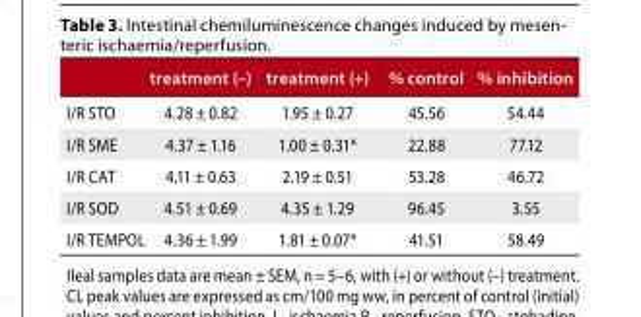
<table><thead><tr><td></td><td>treatment (–)</td><td>treatment (+)</td><td>% control</td><td>% inhibition</td></tr></thead><tbody><tr><td>I/R STO</td><td>4.28 ± 0.82</td><td>1.95 ± 0.27</td><td>45.56</td><td>54.44</td></tr><tr><td>I/R SME</td><td>4.37 ± 1.16</td><td>1.00 ± 0.31*</td><td>22.88</td><td>77.12</td></tr><tr><td>I/R CAT</td><td>4.11 ± 0.63</td><td>2.19 ± 0.51</td><td>53.28</td><td>46.72</td></tr><tr><td>I/R SOD</td><td>4.51 ± 0.69</td><td>4.35 ± 1.29</td><td>96.45</td><td>3.55</td></tr><tr><td>I/R TEMPOL</td><td>4.36 ± 1.99</td><td>1.81 ± 0.07*</td><td>41.51</td><td>58.49</td></tr></tbody></table>